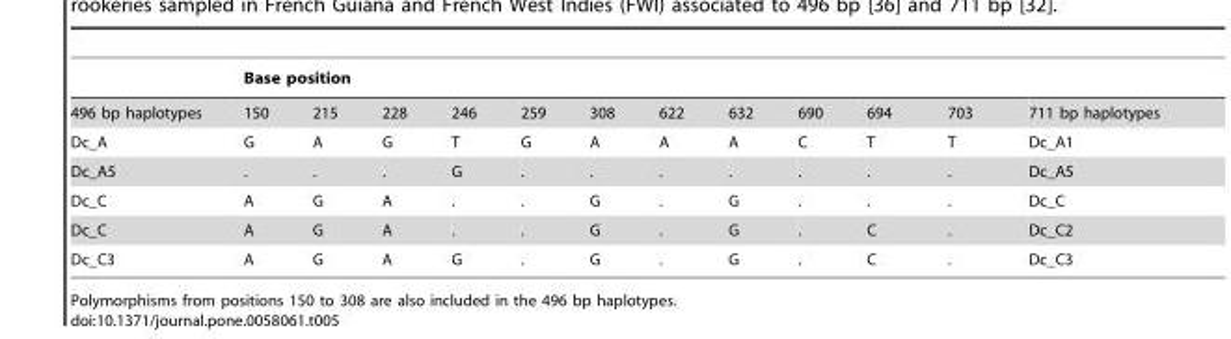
<table><thead><tr><td rowspan="2">496 bp haplotypes</td><td colspan="11">Base position</td><td rowspan="2">711 bp haplotypes</td></tr><tr><td>150</td><td>215</td><td>228</td><td>246</td><td>259</td><td>308</td><td>622</td><td>632</td><td>690</td><td>694</td><td>703</td></tr></thead><tbody><tr><td>Dc_A</td><td>G</td><td>A</td><td>G</td><td>T</td><td>G</td><td>A</td><td>A</td><td>A</td><td>C</td><td>T</td><td>T</td><td>Dc_A1</td></tr><tr><td>Dc_A5</td><td>.</td><td>.</td><td>.</td><td>G</td><td>.</td><td>.</td><td>.</td><td>.</td><td>.</td><td>.</td><td>.</td><td>Dc_A5</td></tr><tr><td>Dc_C</td><td>A</td><td>G</td><td>A</td><td>.</td><td>.</td><td>G</td><td>.</td><td>G</td><td>.</td><td>.</td><td>.</td><td>Dc_C</td></tr><tr><td>Dc_C</td><td>A</td><td>G</td><td>A</td><td>.</td><td>.</td><td>G</td><td>.</td><td>G</td><td>.</td><td>C</td><td>.</td><td>Dc_C2</td></tr><tr><td>Dc_C3</td><td>A</td><td>G</td><td>A</td><td>G</td><td>.</td><td>G</td><td>.</td><td>G</td><td>.</td><td>C</td><td>.</td><td>Dc_C3</td></tr></tbody></table>